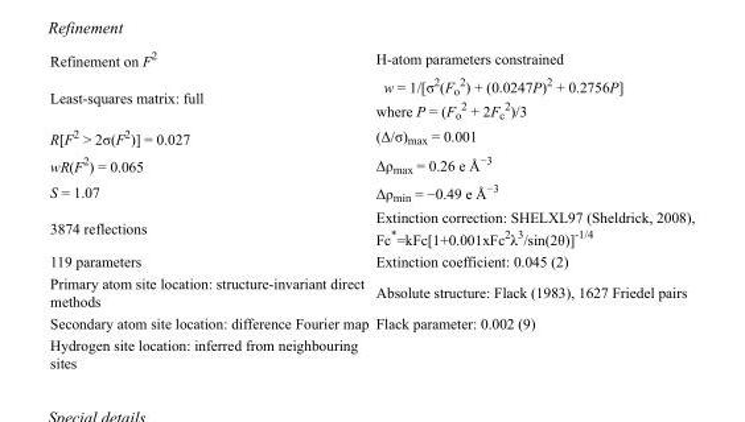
<table><tbody><tr><td>Refinement on F<sup>2</sup></td><td>H-atom parameters constrained</td></tr><tr><td>Least-squares matrix: full</td><td>w = 1/[σ<sup>2</sup>(F<sub>o</sub> <sup>2</sup>) + (0.0247P)<sup>2</sup> + 0.2756P] where P = (F<sub>o</sub> <sup>2</sup> + 2F<sub>c</sub> <sup>2</sup>)/3</td></tr><tr><td>R[F<sup>2</sup> &gt; 2σ(F<sup>2</sup>)] = 0.027</td><td>(Δ/σ)<sub>max</sub> = 0.001</td></tr><tr><td>wR(F<sup>2</sup>) = 0.065</td><td>Δρ<sub>max</sub> = 0.26 e Å<sup>−3</sup></td></tr><tr><td>S = 1.07</td><td>Δρ<sub>min</sub> = −0.49 e Å<sup>−3</sup></td></tr><tr><td>3874 reflections</td><td>Extinction correction: SHELXL97 (Sheldrick, 2008), Fc*=kFc[1+0.001xFc<sup>2</sup>λ<sup>3</sup>/sin(2θ)]<sup>-1/4</sup></td></tr><tr><td>119 parameters</td><td>Extinction coefficient: 0.045 (2)</td></tr><tr><td>Primary atom site location: structure-invariant direct methods</td><td>Absolute structure: Flack (1983), 1627 Friedel pairs</td></tr><tr><td>Secondary atom site location: difference Fourier map</td><td>Flack parameter: 0.002 (9)</td></tr><tr><td>Hydrogen site location: inferred from neighbouring sites</td><td></td></tr></tbody></table>